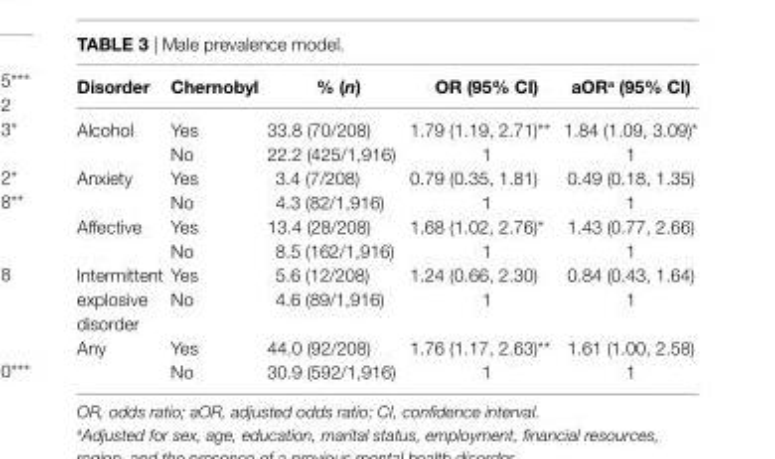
<table><thead><tr><td>Disorder</td><td>chernobyl</td><td>% (n)</td><td>Or (95% ci)</td><td>aOr<sup>a</sup> (95% ci)</td></tr></thead><tbody><tr><td rowspan="2">Alcohol</td><td>Yes</td><td>33.8 (70/208)</td><td>1.79 (1.19, 2.71)**</td><td>1.84 (1.09, 3.09)*</td></tr><tr><td>No</td><td>22.2 (425/1,916)</td><td>1</td><td>1</td></tr><tr><td rowspan="2">Anxiety</td><td>Yes</td><td>3.4 (7/208)</td><td>0.79 (0.35, 1.81)</td><td>0.49 (0.18, 1.35)</td></tr><tr><td>No</td><td>4.3 (82/1,916)</td><td>1</td><td>1</td></tr><tr><td rowspan="2">Affective</td><td>Yes</td><td>13.4 (28/208)</td><td>1.68 (1.02, 2.76)*</td><td>1.43 (0.77, 2.66)</td></tr><tr><td>No</td><td>8.5 (162/1,916)</td><td>1</td><td>1</td></tr><tr><td rowspan="2">Intermittent explosive disorder</td><td>Yes</td><td>5.6 (12/208)</td><td>1.24 (0.66, 2.30)</td><td>0.84 (0.43, 1.64)</td></tr><tr><td>No</td><td>4.6 (89/1,916)</td><td>1</td><td>1</td></tr><tr><td rowspan="2">Any</td><td>Yes</td><td>44.0 (92/208)</td><td>1.76 (1.17, 2.63)**</td><td>1.61 (1.00, 2.58)</td></tr><tr><td>No</td><td>30.9 (592/1,916)</td><td>1</td><td>1</td></tr></tbody></table>